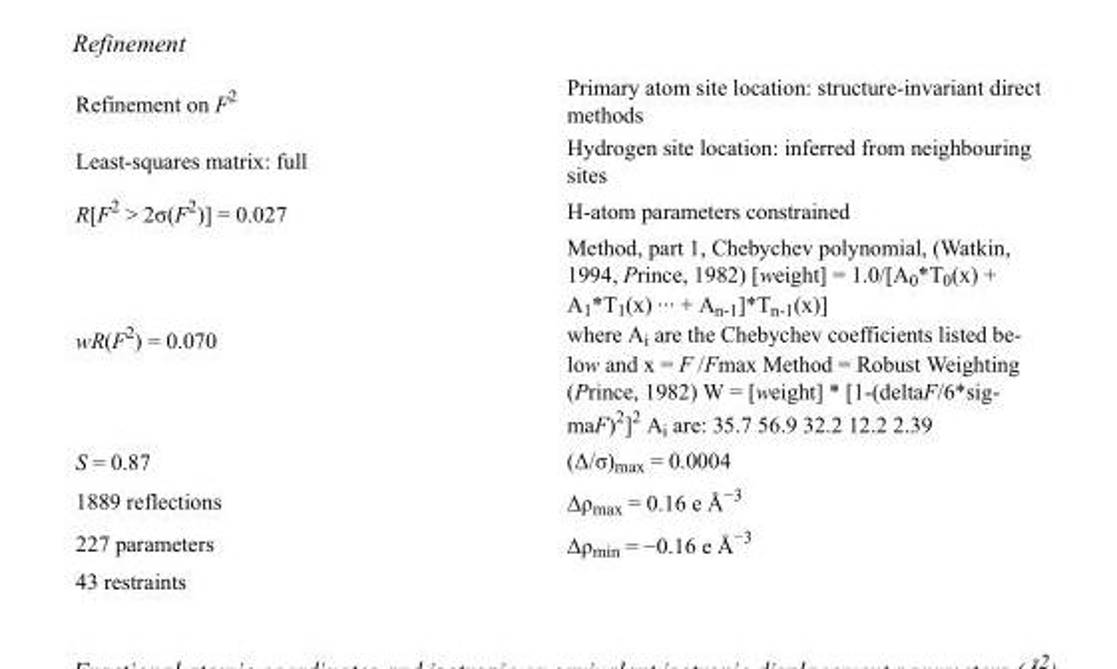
<table><tbody><tr><td>Refinement on F<sup>2</sup></td><td>Primary atom site location: structure-invariant direct methods</td></tr><tr><td>Least-squares matrix: full</td><td>Hydrogen site location: inferred from neighbouring sites</td></tr><tr><td>R[F<sup>2</sup> &gt; 2σ(F<sup>2</sup>)] = 0.027</td><td>H-atom parameters constrained</td></tr><tr><td>wR(F<sup>2</sup>) = 0.070</td><td>Method, part 1, Chebychev polynomial, (Watkin, 1994, Prince, 1982) [weight] = 1.0/[A0*T0(x) + A1*T1(x) ··· + An-1]*Tn-1(x)] where Ai are the Chebychev coefficients listed be- low and x = F /Fmax Method = Robust Weighting (Prince, 1982) W = [weight] * [1-(deltaF/6*sig- maF)2]2 Ai are: 35.7 56.9 32.2 12.2 2.39</td></tr><tr><td>S = 0.87</td><td>(Δ/σ)<sub>max</sub> = 0.0004</td></tr><tr><td>1889 reflections</td><td>Δρ<sub>max</sub> = 0.16 e Å<sup>−3</sup></td></tr><tr><td>227 parameters</td><td>Δρ<sub>min</sub> = −0.16 e Å<sup>−3</sup></td></tr><tr><td>43 restraints</td><td></td></tr></tbody></table>